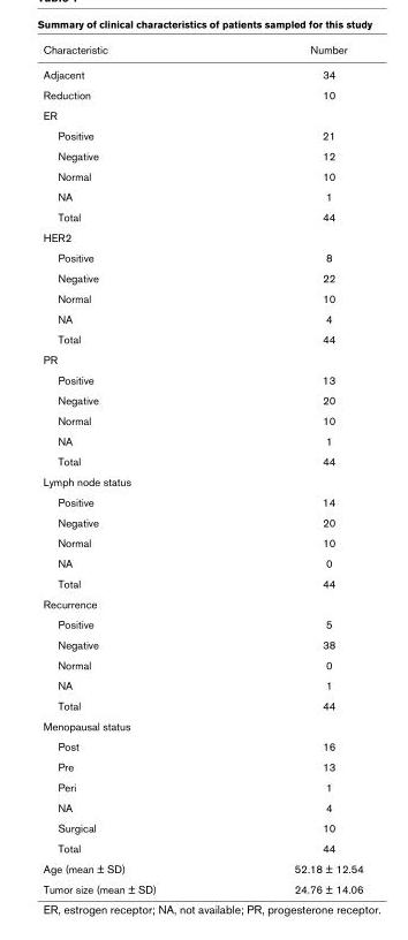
<table><thead><tr><td>Characteristic</td><td>Number</td></tr></thead><tbody><tr><td>Adjacent</td><td>34</td></tr><tr><td>Reduction</td><td>10</td></tr><tr><td colspan="2">ER</td></tr><tr><td>Positive</td><td>21</td></tr><tr><td>Negative</td><td>12</td></tr><tr><td>Normal</td><td>10</td></tr><tr><td>NA</td><td>1</td></tr><tr><td>Total</td><td>44</td></tr><tr><td colspan="2">HER2</td></tr><tr><td>Positive</td><td>8</td></tr><tr><td>Negative</td><td>22</td></tr><tr><td>Normal</td><td>10</td></tr><tr><td>NA</td><td>4</td></tr><tr><td>Total</td><td>44</td></tr><tr><td colspan="2">PR</td></tr><tr><td>Positive</td><td>13</td></tr><tr><td>Negative</td><td>20</td></tr><tr><td>Normal</td><td>10</td></tr><tr><td>NA</td><td>1</td></tr><tr><td>Total</td><td>44</td></tr><tr><td colspan="2">Lymph node status</td></tr><tr><td>Positive</td><td>14</td></tr><tr><td>Negative</td><td>20</td></tr><tr><td>Normal</td><td>10</td></tr><tr><td>NA</td><td>0</td></tr><tr><td>Total</td><td>44</td></tr><tr><td colspan="2">Recurrence</td></tr><tr><td>Positive</td><td>5</td></tr><tr><td>Negative</td><td>38</td></tr><tr><td>Normal</td><td>0</td></tr><tr><td>NA</td><td>1</td></tr><tr><td>Total</td><td>44</td></tr><tr><td colspan="2">Menopausal status</td></tr><tr><td>Post</td><td>16</td></tr><tr><td>Pre</td><td>13</td></tr><tr><td>Peri</td><td>1</td></tr><tr><td>NA</td><td>4</td></tr><tr><td>Surgical</td><td>10</td></tr><tr><td>Total</td><td>44</td></tr><tr><td>Age (mean ± SD)</td><td>52.18 ± 12.54</td></tr><tr><td>Tumor size (mean ± SD)</td><td>24.76 ± 14.06</td></tr></tbody></table>